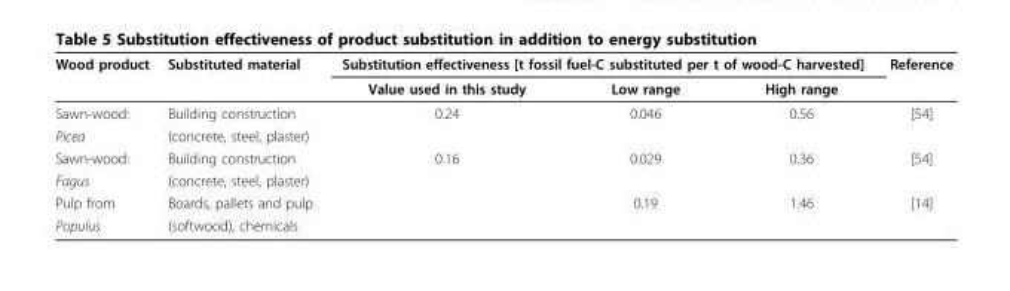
<table><thead><tr><td rowspan="2">Wood product</td><td rowspan="2">Substituted material</td><td colspan="3">Substitution effectiveness [t fossil fuel-C substituted per t of wood-C harvested]</td><td rowspan="2">Reference</td></tr><tr><td>Value used in this study</td><td>Low range</td><td>High range</td></tr></thead><tbody><tr><td>Sawn-wood:</td><td>Building construction</td><td>0.24</td><td>0.046</td><td>0.56</td><td>[54]</td></tr><tr><td>Picea</td><td>(concrete, steel, plaster)</td><td></td><td></td><td></td><td></td></tr><tr><td>Sawn-wood:</td><td>Building construction</td><td>0.16</td><td>0.029</td><td>0.36</td><td>[54]</td></tr><tr><td>Fagus</td><td>(concrete, steel, plaster)</td><td></td><td></td><td></td><td></td></tr><tr><td>Pulp from</td><td>Boards, pallets and pulp</td><td></td><td>0.19</td><td>1.46</td><td>[14]</td></tr><tr><td>Populus</td><td>(softwood), chemicals</td><td></td><td></td><td></td><td></td></tr></tbody></table>